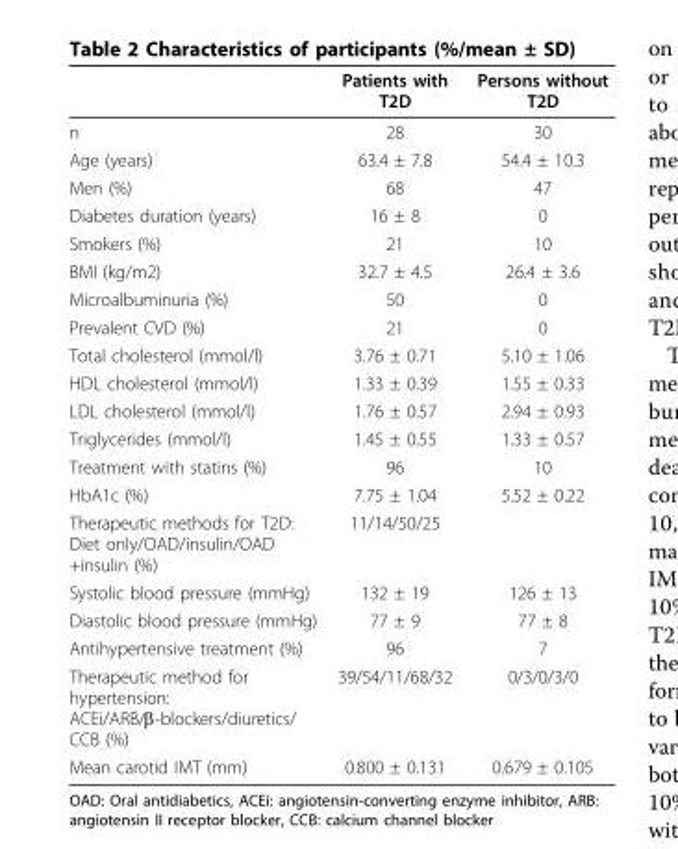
<table><thead><tr><td></td><td>Patients with T2D</td><td>Persons without T2D</td></tr></thead><tbody><tr><td>n</td><td>28</td><td>30</td></tr><tr><td>Age (years)</td><td>63.4 ± 7.8</td><td>54.4 ± 10.3</td></tr><tr><td>Men (%)</td><td>68</td><td>47</td></tr><tr><td>Diabetes duration (years)</td><td>16 ± 8</td><td>0</td></tr><tr><td>Smokers (%)</td><td>21</td><td>10</td></tr><tr><td>BMI (kg/m2)</td><td>32.7 ± 4.5</td><td>26.4 ± 3.6</td></tr><tr><td>Microalbuminuria (%)</td><td>50</td><td>0</td></tr><tr><td>Prevalent CVD (%)</td><td>21</td><td>0</td></tr><tr><td>Total cholesterol (mmol/l)</td><td>3.76 ± 0.71</td><td>5.10 ± 1.06</td></tr><tr><td>HDL cholesterol (mmol/l)</td><td>1.33 ± 0.39</td><td>1.55 ± 0.33</td></tr><tr><td>LDL cholesterol (mmol/l)</td><td>1.76 ± 0.57</td><td>2.94 ± 0.93</td></tr><tr><td>Triglycerides (mmol/l)</td><td>1.45 ± 0.55</td><td>1.33 ± 0.57</td></tr><tr><td>Treatment with statins (%)</td><td>96</td><td>10</td></tr><tr><td>HbA1c (%)</td><td>7.75 ± 1.04</td><td>5.52 ± 0.22</td></tr><tr><td>Therapeutic methods for T2D: Diet only/OAD/insulin/OAD +insulin (%)</td><td>11/14/50/25</td><td></td></tr><tr><td>Systolic blood pressure (mmHg)</td><td>132 ± 19</td><td>126 ± 13</td></tr><tr><td>Diastolic blood pressure (mmHg)</td><td>77 ± 9</td><td>77 ± 8</td></tr><tr><td>Antihypertensive treatment (%)</td><td>96</td><td>7</td></tr><tr><td>Therapeutic method for hypertension: ACEi/ARB/β-blockers/diuretics/ CCB (%)</td><td>39/54/11/68/32</td><td>0/3/0/3/0</td></tr><tr><td>Mean carotid IMT (mm)</td><td>0.800 ± 0.131</td><td>0.679 ± 0.105</td></tr></tbody></table>